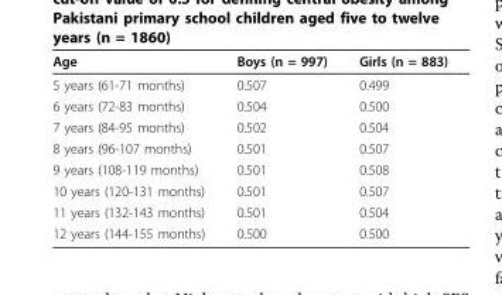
<table><thead><tr><td>Age</td><td>Boys (n = 997)</td><td>Girls (n = 883)</td></tr></thead><tbody><tr><td>5 years (61-71 months)</td><td>0.507</td><td>0.499</td></tr><tr><td>6 years (72-83 months)</td><td>0.504</td><td>0.500</td></tr><tr><td>7 years (84-95 months)</td><td>0.502</td><td>0.504</td></tr><tr><td>8 years (96-107 months)</td><td>0.501</td><td>0.507</td></tr><tr><td>9 years (108-119 months)</td><td>0.501</td><td>0.508</td></tr><tr><td>10 years (120-131 months)</td><td>0.501</td><td>0.507</td></tr><tr><td>11 years (132-143 months)</td><td>0.501</td><td>0.504</td></tr><tr><td>12 years (144-155 months)</td><td>0.500</td><td>0.500</td></tr></tbody></table>